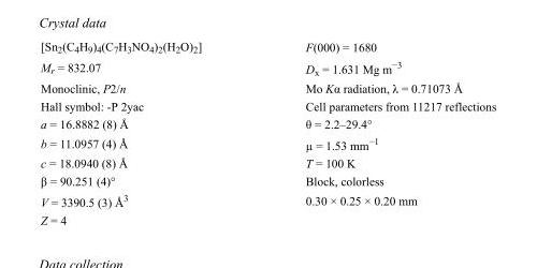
<table><tbody><tr><td>[Sn<sub>2</sub>(C<sub>4</sub>H<sub>9</sub>)<sub>4</sub>(C<sub>7</sub>H<sub>3</sub>NO<sub>4</sub>)<sub>2</sub>(H<sub>2</sub>O)<sub>2</sub>]</td><td>F(000) = 1680</td></tr><tr><td>M<sub>r</sub> = 832.07</td><td>D<sub>x</sub> = 1.631 Mg m<sup>−3</sup></td></tr><tr><td>Monoclinic, P2/n</td><td>Mo Kα radiation, λ = 0.71073 Å</td></tr><tr><td>Hall symbol: -P 2yac</td><td>Cell parameters from 11217 reflections</td></tr><tr><td>a = 16.8882 (8) Å</td><td>θ = 2.2–29.4°</td></tr><tr><td>b = 11.0957 (4) Å</td><td>µ = 1.53 mm<sup>−1</sup></td></tr><tr><td>c = 18.0940 (8) Å</td><td>T = 100 K</td></tr><tr><td>β = 90.251 (4)°</td><td>Block, colorless</td></tr><tr><td>V = 3390.5 (3) Å<sup>3</sup></td><td>0.30 × 0.25 × 0.20 mm</td></tr><tr><td>Z = 4</td><td></td></tr></tbody></table>